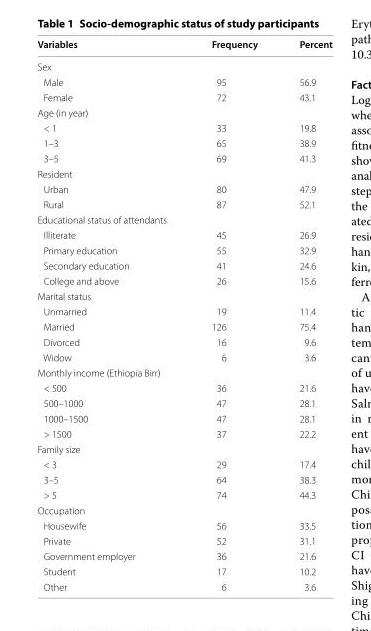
<table><thead><tr><td>Variables</td><td>Frequency</td><td>Percent</td></tr></thead><tbody><tr><td colspan="3">Sex</td></tr><tr><td>Male</td><td>95</td><td>56.9</td></tr><tr><td>Female</td><td>72</td><td>43.1</td></tr><tr><td colspan="3">Age (in year)</td></tr><tr><td>&lt; 1</td><td>33</td><td>19.8</td></tr><tr><td>1–3</td><td>65</td><td>38.9</td></tr><tr><td>3–5</td><td>69</td><td>41.3</td></tr><tr><td colspan="3">Resident</td></tr><tr><td>Urban</td><td>80</td><td>47.9</td></tr><tr><td>Rural</td><td>87</td><td>52.1</td></tr><tr><td colspan="3">Educational status of attendants</td></tr><tr><td>Illiterate</td><td>45</td><td>26.9</td></tr><tr><td>Primary education</td><td>55</td><td>32.9</td></tr><tr><td>Secondary education</td><td>41</td><td>24.6</td></tr><tr><td>College and above</td><td>26</td><td>15.6</td></tr><tr><td colspan="3">Marital status</td></tr><tr><td>Unmarried</td><td>19</td><td>11.4</td></tr><tr><td>Married</td><td>126</td><td>75.4</td></tr><tr><td>Divorced</td><td>16</td><td>9.6</td></tr><tr><td>Widow</td><td>6</td><td>3.6</td></tr><tr><td colspan="3">Monthly income (Ethiopia Birr)</td></tr><tr><td>&lt; 500</td><td>36</td><td>21.6</td></tr><tr><td>500–1000</td><td>47</td><td>28.1</td></tr><tr><td>1000–1500</td><td>47</td><td>28.1</td></tr><tr><td>&gt; 1500</td><td>37</td><td>22.2</td></tr><tr><td colspan="3">Family size</td></tr><tr><td>&lt; 3</td><td>29</td><td>17.4</td></tr><tr><td>3–5</td><td>64</td><td>38.3</td></tr><tr><td>&gt; 5</td><td>74</td><td>44.3</td></tr><tr><td colspan="3">Occupation</td></tr><tr><td>Housewife</td><td>56</td><td>33.5</td></tr><tr><td>Private</td><td>52</td><td>31.1</td></tr><tr><td>Government employer</td><td>36</td><td>21.6</td></tr><tr><td>Student</td><td>17</td><td>10.2</td></tr><tr><td>Other</td><td>6</td><td>3.6</td></tr></tbody></table>